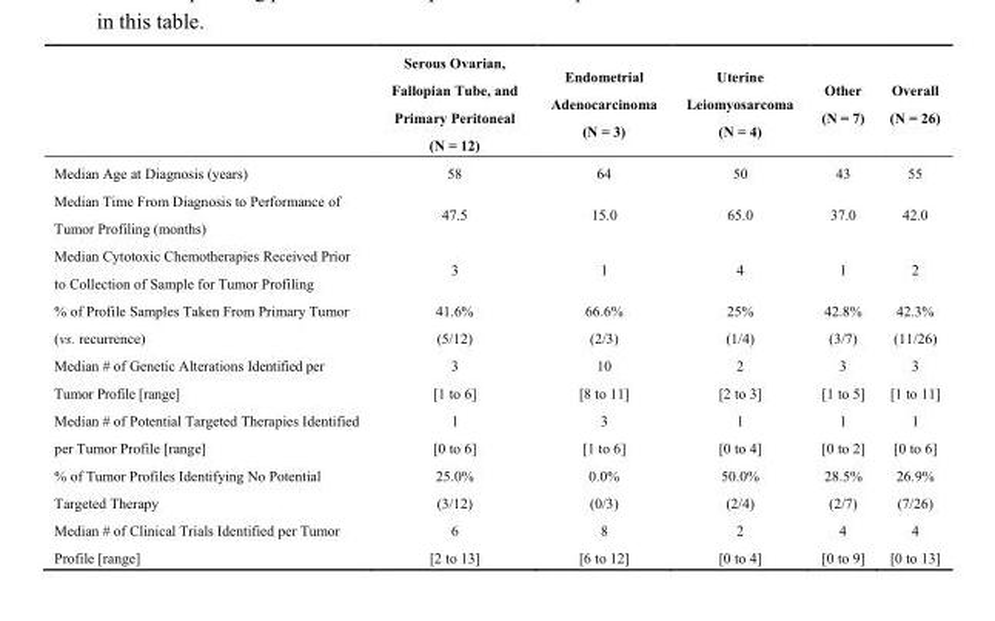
<table><thead><tr><td></td><td>Serous Ovarian, Fallopian Tube, and Primary Peritoneal (N = 12)</td><td>Endometrial Adenocarcinoma (N = 3)</td><td>Uterine Leiomyosarcoma (N = 4)</td><td>Other (N = 7)</td><td>Overall (N = 26)</td></tr></thead><tbody><tr><td>Median Age at Diagnosis (years)</td><td>58</td><td>64</td><td>50</td><td>43</td><td>55</td></tr><tr><td>Median Time From Diagnosis to Performance of Tumor Profiling (months)</td><td>47.5</td><td>15.0</td><td>65.0</td><td>37.0</td><td>42.0</td></tr><tr><td>Median Cytotoxic Chemotherapies Received Prior to Collection of Sample for Tumor Profiling</td><td>3</td><td>1</td><td>4</td><td>1</td><td>2</td></tr><tr><td>% of Profile Samples Taken From Primary Tumor (vs. recurrence)</td><td>41.6% (5/12)</td><td>66.6% (2/3)</td><td>25% (1/4)</td><td>42.8% (3/7)</td><td>42.3% (11/26)</td></tr><tr><td>Median # of Genetic Alterations Identified per Tumor Profile [range]</td><td>3 [1 to 6]</td><td>10 [8 to 11]</td><td>2 [2 to 3]</td><td>3 [1 to 5]</td><td>3 [1 to 11]</td></tr><tr><td>Median # of Potential Targeted Therapies Identified per Tumor Profile [range]</td><td>1 [0 to 6]</td><td>3 [1 to 6]</td><td>1 [0 to 4]</td><td>1 [0 to 2]</td><td>1 [0 to 6]</td></tr><tr><td>% of Tumor Profiles Identifying No Potential Targeted Therapy</td><td>25.0% (3/12)</td><td>0.0% (0/3)</td><td>50.0% (2/4)</td><td>28.5% (2/7)</td><td>26.9% (7/26)</td></tr><tr><td>Median # of Clinical Trials Identified per Tumor Profile [range]</td><td>6 [2 to 13]</td><td>8 [6 to 12]</td><td>2 [0 to 4]</td><td>4 [0 to 9]</td><td>4 [0 to 13]</td></tr></tbody></table>